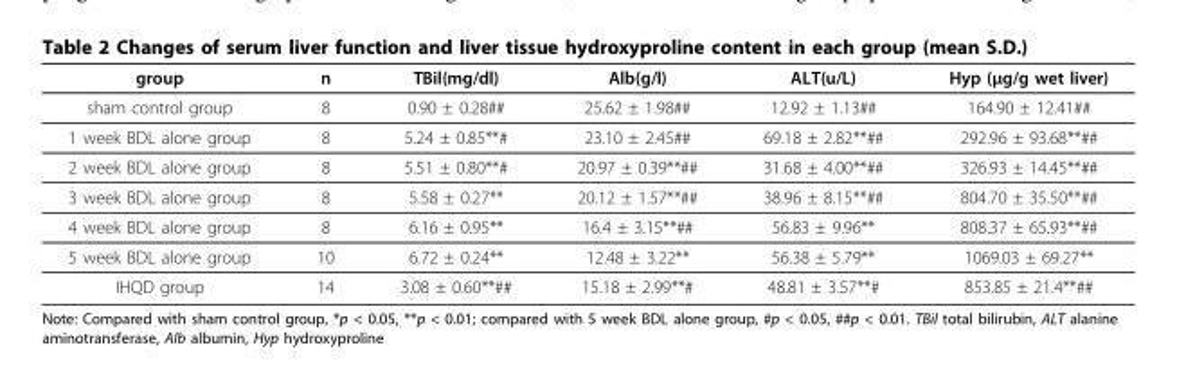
<table><thead><tr><td>group</td><td>n</td><td>TBil(mg/dl)</td><td>Alb(g/l)</td><td>ALT(u/L)</td><td>Hyp (μg/g wet liver)</td></tr></thead><tbody><tr><td>sham control group</td><td>8</td><td>0.90 ± 0.28##</td><td>25.62 ± 1.98##</td><td>12.92 ± 1.13##</td><td>164.90 ± 12.41##</td></tr><tr><td>1 week BDL alone group</td><td>8</td><td>5.24 ± 0.85**#</td><td>23.10 ± 2.45##</td><td>69.18 ± 2.82**##</td><td>292.96 ± 93.68**##</td></tr><tr><td>2 week BDL alone group</td><td>8</td><td>5.51 ± 0.80**#</td><td>20.97 ± 0.39**##</td><td>31.68 ± 4.00**##</td><td>326.93 ± 14.45**##</td></tr><tr><td>3 week BDL alone group</td><td>8</td><td>5.58 ± 0.27**</td><td>20.12 ± 1.57**##</td><td>38.96 ± 8.15**##</td><td>804.70 ± 35.50**##</td></tr><tr><td>4 week BDL alone group</td><td>8</td><td>6.16 ± 0.95**</td><td>16.4 ± 3.15**##</td><td>56.83 ± 9.96**</td><td>808.37 ± 65.93**##</td></tr><tr><td>5 week BDL alone group</td><td>10</td><td>6.72 ± 0.24**</td><td>12.48 ± 3.22**</td><td>56.38 ± 5.79**</td><td>1069.03 ± 69.27**</td></tr><tr><td>IHQD group</td><td>14</td><td>3.08 ± 0.60**##</td><td>15.18 ± 2.99**#</td><td>48.81 ± 3.57**#</td><td>853.85 ± 21.4**##</td></tr></tbody></table>